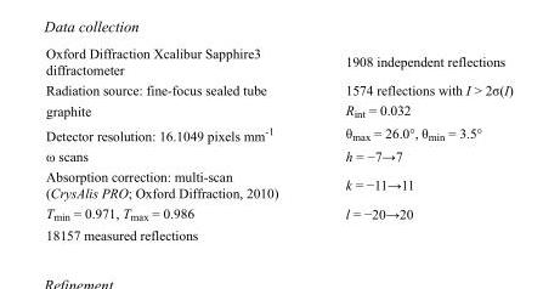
<table><tbody><tr><td>Oxford Diffraction Xcalibur Sapphire3 diffractometer</td><td>1908 independent reflections</td></tr><tr><td>Radiation source: fine-focus sealed tube</td><td>1574 reflections with I &gt; 2σ(I)</td></tr><tr><td>graphite</td><td>R<sub>int</sub> = 0.032</td></tr><tr><td>Detector resolution: 16.1049 pixels mm<sup>-1</sup></td><td>θ<sub>max</sub> = 26.0°, θ<sub>min</sub> = 3.5°</td></tr><tr><td>ω scans</td><td>h = −7→7</td></tr><tr><td>Absorption correction: multi-scan (CrysAlis PRO; Oxford Diffraction, 2010)</td><td>k = −11→11</td></tr><tr><td>T<sub>min</sub> = 0.971, T<sub>max</sub> = 0.986</td><td>l = −20→20</td></tr><tr><td>18157 measured reflections</td><td></td></tr></tbody></table>